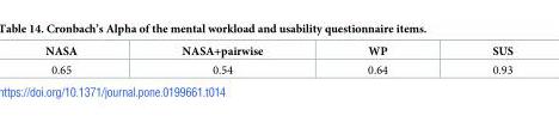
<table><thead><tr><td>NASA</td><td>NASA+pairwise</td><td>WP</td><td>SUS</td></tr></thead><tbody><tr><td>0.65</td><td>0.54</td><td>0.64</td><td>0.93</td></tr></tbody></table>